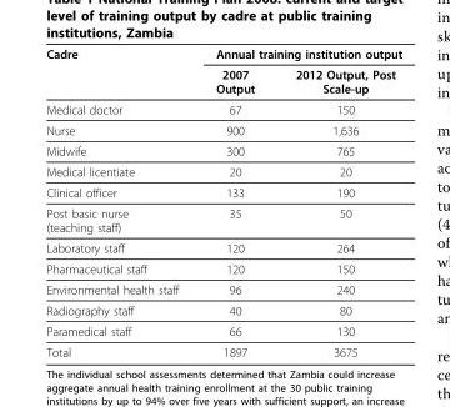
<table><thead><tr><td rowspan="2">Cadre</td><td colspan="2">Annual training institution output</td></tr><tr><td>2007 Output</td><td>2012 Output, Post Scale-up</td></tr></thead><tbody><tr><td>Medical doctor</td><td>67</td><td>150</td></tr><tr><td>Nurse</td><td>900</td><td>1,636</td></tr><tr><td>Midwife</td><td>300</td><td>765</td></tr><tr><td>Medical licentiate</td><td>20</td><td>20</td></tr><tr><td>Clinical officer</td><td>133</td><td>190</td></tr><tr><td>Post basic nurse (teaching staff)</td><td>35</td><td>50</td></tr><tr><td>Laboratory staff</td><td>120</td><td>264</td></tr><tr><td>Pharmaceutical staff</td><td>120</td><td>150</td></tr><tr><td>Environmental health staff</td><td>96</td><td>240</td></tr><tr><td>Radiography staff</td><td>40</td><td>80</td></tr><tr><td>Paramedical staff</td><td>66</td><td>130</td></tr><tr><td>Total</td><td>1897</td><td>3675</td></tr></tbody></table>